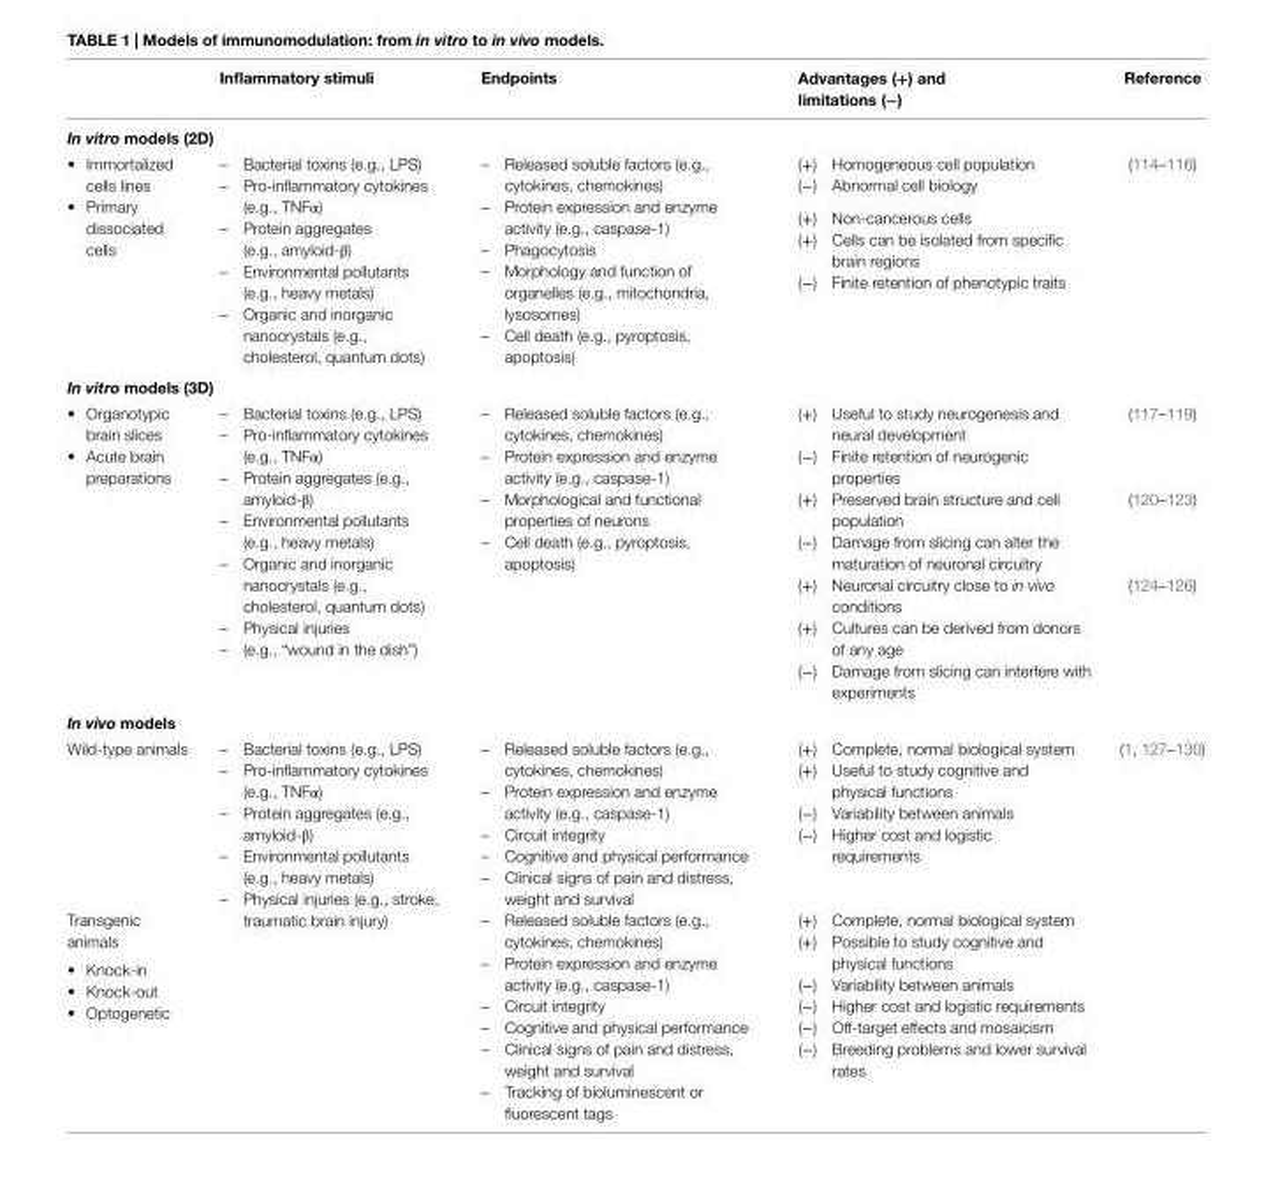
<table><thead><tr><td></td><td>inflammatory stimuli</td><td>endpoints</td><td>Advantages (+) and limitations (−)</td><td>Reference</td></tr></thead><tbody><tr><td colspan="5">In vitro models (2D)</td></tr><tr><td rowspan="2">• Immortalized cells lines • Primary dissociated cells</td><td rowspan="2">– Bacterial toxins (e.g., LPS) – Pro-inflammatory cytokines (e.g., TNFα) – Protein aggregates (e.g., amyloid-β) – Environmental pollutants (e.g., heavy metals) – Organic and inorganic nanocrystals (e.g., cholesterol, quantum dots)</td><td rowspan="2">– Released soluble factors (e.g., cytokines, chemokines) – Protein expression and enzyme activity (e.g., caspase-1) – Phagocytosis – Morphology and function of organelles (e.g., mitochondria, lysosomes) – Cell death (e.g., pyroptosis, apoptosis)</td><td>(+) Homogeneous cell population (−) Abnormal cell biology</td><td rowspan="2">(114–116)</td></tr><tr><td>(+) Non-cancerous cells (+) Cells can be isolated from specific brain regions (−) Finite retention of phenotypic traits</td></tr><tr><td colspan="5">In vitro models (3D)</td></tr><tr><td rowspan="3">• Organotypic brain slices • Acute brain preparations</td><td rowspan="3">– Bacterial toxins (e.g., LPS) – Pro-inflammatory cytokines (e.g., TNFα) – Protein aggregates (e.g., amyloid-β) – Environmental pollutants (e.g., heavy metals) – Organic and inorganic nanocrystals (e.g., cholesterol, quantum dots) – Physical injuries – (e.g., “wound in the dish”)</td><td rowspan="3">– Released soluble factors (e.g., cytokines, chemokines) – Protein expression and enzyme activity (e.g., caspase-1) – Morphological and functional properties of neurons – Cell death (e.g., pyroptosis, apoptosis)</td><td>(+) Useful to study neurogenesis and neural development (−) Finite retention of neurogenic properties</td><td>(117–119)</td></tr><tr><td>(+) Preserved brain structure and cell population (−) Damage from slicing can alter the maturation of neuronal circuitry</td><td>(120–123)</td></tr><tr><td>(+) Neuronal circuitry close to in vivo conditions (+) Cultures can be derived from donors of any age (−) Damage from slicing can interfere with experiments</td><td>(124–126)</td></tr><tr><td colspan="5">In vivo models</td></tr><tr><td>Wild-type animals</td><td rowspan="2">– Bacterial toxins (e.g., LPS) – Pro-inflammatory cytokines (e.g., TNFα) – Protein aggregates (e.g., amyloid-β) – Environmental pollutants (e.g., heavy metals) – Physical injuries (e.g., stroke, traumatic brain injury)</td><td>– Released soluble factors (e.g., cytokines, chemokines) – Protein expression and enzyme activity (e.g., caspase-1) – Circuit integrity – Cognitive and physical performance – Clinical signs of pain and distress, weight and survival</td><td>(+) Complete, normal biological system (+) Useful to study cognitive and physical functions (−) Variability between animals (−) Higher cost and logistic requirements</td><td rowspan="2">(1, 127–130)</td></tr><tr><td>Transgenic animals • Knock-in • Knock-out • Optogenetic</td><td>– Released soluble factors (e.g., cytokines, chemokines) – Protein expression and enzyme activity (e.g., caspase-1) – Circuit integrity – Cognitive and physical performance – Clinical signs of pain and distress, weight and survival – Tracking of bioluminescent or fluorescent tags</td><td>(+) Complete, normal biological system (+) Possible to study cognitive and physical functions (−) Variability between animals (−) Higher cost and logistic requirements (−) Off-target effects and mosaicism (−) Breeding problems and lower survival rates</td></tr></tbody></table>